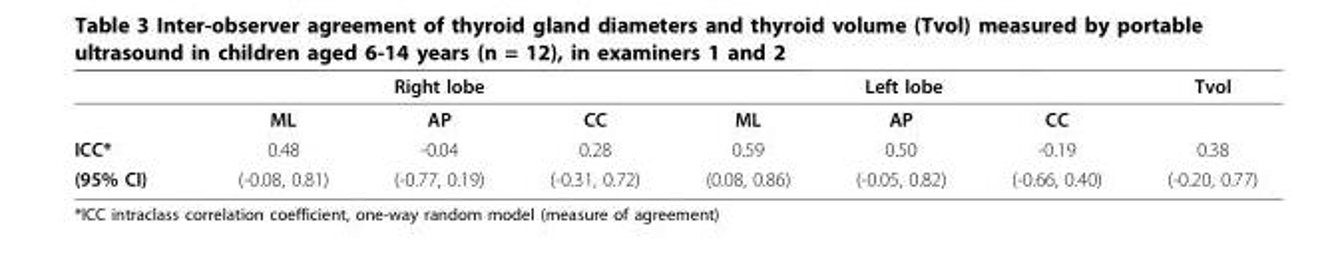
<table><thead><tr><td rowspan="2"></td><td colspan="3">Right lobe</td><td colspan="3">Left lobe</td><td rowspan="2">Tvol</td></tr><tr><td>ML</td><td>AP</td><td>CC</td><td>ML</td><td>AP</td><td>CC</td></tr></thead><tbody><tr><td>ICC*</td><td>0.48</td><td>-0.04</td><td>0.28</td><td>0.59</td><td>0.50</td><td>-0.19</td><td>0.38</td></tr><tr><td>(95% CI)</td><td>(-0.08, 0.81)</td><td>(-0.77, 0.19)</td><td>(-0.31, 0.72)</td><td>(0.08, 0.86)</td><td>(-0.05, 0.82)</td><td>(-0.66, 0.40)</td><td>(-0.20, 0.77)</td></tr></tbody></table>